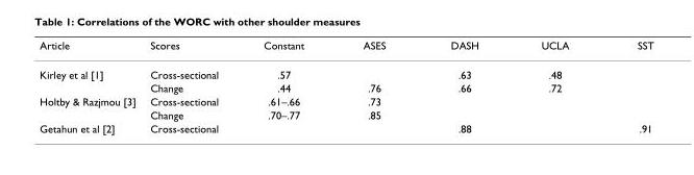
<table><thead><tr><td>Article</td><td>Scores</td><td>Constant</td><td>ASES</td><td>DASH</td><td>UCLA</td><td>SST</td></tr></thead><tbody><tr><td rowspan="2">Kirley et al [1]</td><td>Cross-sectional</td><td>.57</td><td></td><td>.63</td><td>.48</td><td></td></tr><tr><td>Change</td><td>.44</td><td>.76</td><td>.66</td><td>.72</td><td></td></tr><tr><td rowspan="2">Holtby &amp; Razjmou [3]</td><td>Cross-sectional</td><td>.61–.66</td><td>.73</td><td></td><td></td><td></td></tr><tr><td>Change</td><td>.70–.77</td><td>.85</td><td></td><td></td><td></td></tr><tr><td>Getahun et al [2]</td><td>Cross-sectional</td><td></td><td></td><td>.88</td><td></td><td>.91</td></tr></tbody></table>